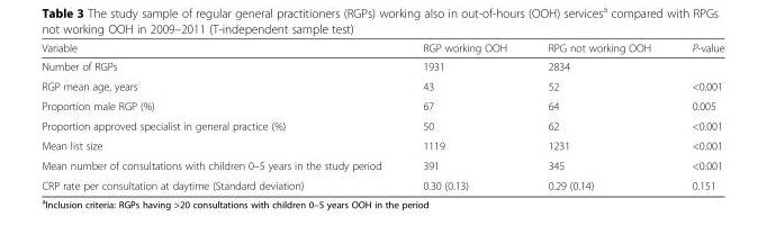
<table><thead><tr><td>Variable</td><td>RGP working OOH</td><td>RPG not working OOH</td><td>P-value</td></tr></thead><tbody><tr><td>Number of RGPs</td><td>1931</td><td>2834</td><td></td></tr><tr><td>RGP mean age, years</td><td>43</td><td>52</td><td>&lt;0.001</td></tr><tr><td>Proportion male RGP (%)</td><td>67</td><td>64</td><td>0.005</td></tr><tr><td>Proportion approved specialist in general practice (%)</td><td>50</td><td>62</td><td>&lt;0.001</td></tr><tr><td>Mean list size</td><td>1119</td><td>1231</td><td>&lt;0.001</td></tr><tr><td>Mean number of consultations with children 0–5 years in the study period</td><td>391</td><td>345</td><td>&lt;0.001</td></tr><tr><td>CRP rate per consultation at daytime (Standard deviation)</td><td>0.30 (0.13)</td><td>0.29 (0.14)</td><td>0.151</td></tr></tbody></table>